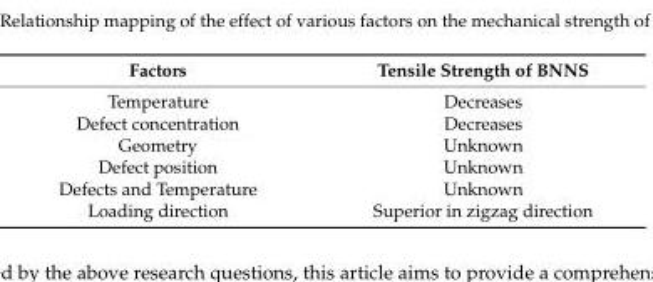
<table><thead><tr><td>Factors</td><td>Tensile Strength of BNNS</td></tr></thead><tbody><tr><td>Temperature</td><td>Decreases</td></tr><tr><td>Defect concentration</td><td>Decreases</td></tr><tr><td>Geometry</td><td>Unknown</td></tr><tr><td>Defect position</td><td>Unknown</td></tr><tr><td>Defects and Temperature</td><td>Unknown</td></tr><tr><td>Loading direction</td><td>Superior in zigzag direction</td></tr></tbody></table>